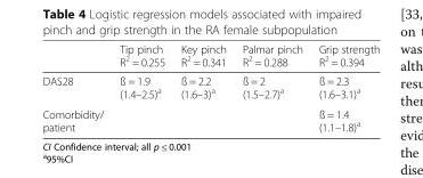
<table><thead><tr><td></td><td>Tip pinch R<sup>2</sup> = 0.255</td><td>Key pinch R<sup>2</sup> = 0.341</td><td>Palmar pinch R<sup>2</sup> = 0.288</td><td>Grip strength R<sup>2</sup> = 0.394</td></tr></thead><tbody><tr><td>DAS28</td><td>ß = 1.9 (1.4–2.5)<sup>a</sup></td><td>ß = 2.2 (1.6–3)<sup>a</sup></td><td>ß = 2 (1.5–2.7)<sup>a</sup></td><td>ß = 2.3 (1.6–3.1)<sup>a</sup></td></tr><tr><td>Comorbidity/ patient</td><td></td><td></td><td></td><td>ß = 1.4 (1.1–1.8)<sup>a</sup></td></tr></tbody></table>